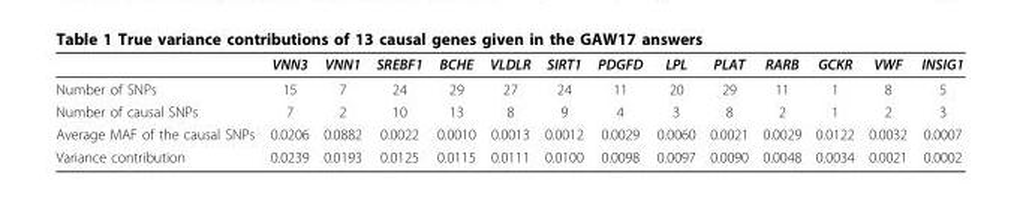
<table><thead><tr><td></td><td>VNN3</td><td>VNN1</td><td>SREBF1</td><td>BCHE</td><td>VLDLR</td><td>SIRT1</td><td>PDGFD</td><td>LPL</td><td>PLAT</td><td>RARB</td><td>GCKR</td><td>VWF</td><td>INSIG1</td></tr></thead><tbody><tr><td>Number of SNPs</td><td>15</td><td>7</td><td>24</td><td>29</td><td>27</td><td>24</td><td>11</td><td>20</td><td>29</td><td>11</td><td>1</td><td>8</td><td>5</td></tr><tr><td>Number of causal SNPs</td><td>7</td><td>2</td><td>10</td><td>13</td><td>8</td><td>9</td><td>4</td><td>3</td><td>8</td><td>2</td><td>1</td><td>2</td><td>3</td></tr><tr><td>Average MAF of the causal SNPs</td><td>0.0206</td><td>0.0882</td><td>0.0022</td><td>0.0010</td><td>0.0013</td><td>0.0012</td><td>0.0029</td><td>0.0060</td><td>0.0021</td><td>0.0029</td><td>0.0122</td><td>0.0032</td><td>0.0007</td></tr><tr><td>Variance contribution</td><td>0.0239</td><td>0.0193</td><td>0.0125</td><td>0.0115</td><td>0.0111</td><td>0.0100</td><td>0.0098</td><td>0.0097</td><td>0.0090</td><td>0.0048</td><td>0.0034</td><td>0.0021</td><td>0.0002</td></tr></tbody></table>